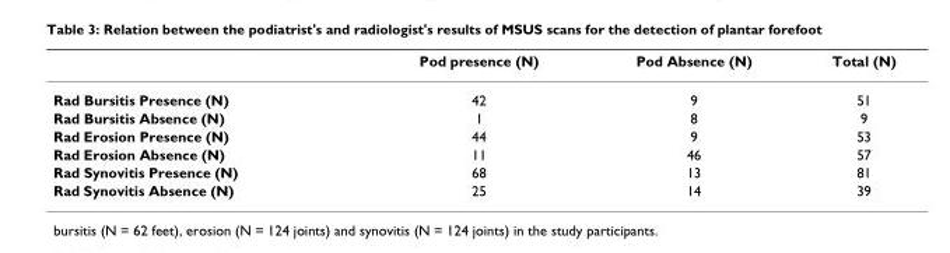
<table><thead><tr><td></td><td>Pod presence (N)</td><td>Pod Absence (N)</td><td>Total (N)</td></tr></thead><tbody><tr><td>Rad Bursitis Presence (N)</td><td>42</td><td>9</td><td>51</td></tr><tr><td>Rad Bursitis Absence (N)</td><td>1</td><td>8</td><td>9</td></tr><tr><td>Rad Erosion Presence (N)</td><td>44</td><td>9</td><td>53</td></tr><tr><td>Rad Erosion Absence (N)</td><td>11</td><td>46</td><td>57</td></tr><tr><td>Rad Synovitis Presence (N)</td><td>68</td><td>13</td><td>81</td></tr><tr><td>Rad Synovitis Absence (N)</td><td>25</td><td>14</td><td>39</td></tr></tbody></table>